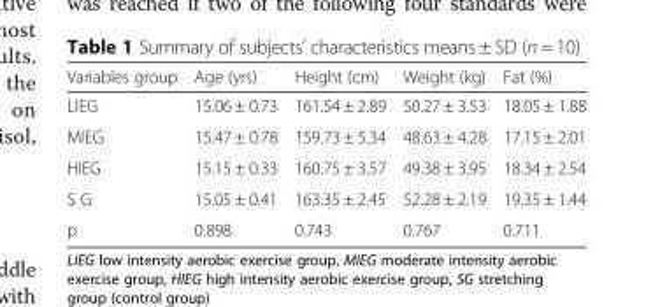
<table><thead><tr><td>Variables group</td><td>Age (yrs)</td><td>Height (cm)</td><td>Weight (kg)</td><td>Fat (%)</td></tr></thead><tbody><tr><td>LIEG</td><td>15.06 ± 0.73</td><td>161.54 ± 2.89</td><td>50.27 ± 3.53</td><td>18.05 ± 1.88</td></tr><tr><td>MIEG</td><td>15.47 ± 0.78</td><td>159.73 ± 5.34</td><td>48.63 ± 4.28</td><td>17.15 ± 2.01</td></tr><tr><td>HIEG</td><td>15.15 ± 0.33</td><td>160.75 ± 3.57</td><td>49.38 ± 3.95</td><td>18.34 ± 2.54</td></tr><tr><td>S G</td><td>15.05 ± 0.41</td><td>163.35 ± 2.45</td><td>52.28 ± 2.19</td><td>19.35 ± 1.44</td></tr><tr><td>p</td><td>0.898</td><td>0.743</td><td>0.767</td><td>0.711</td></tr></tbody></table>